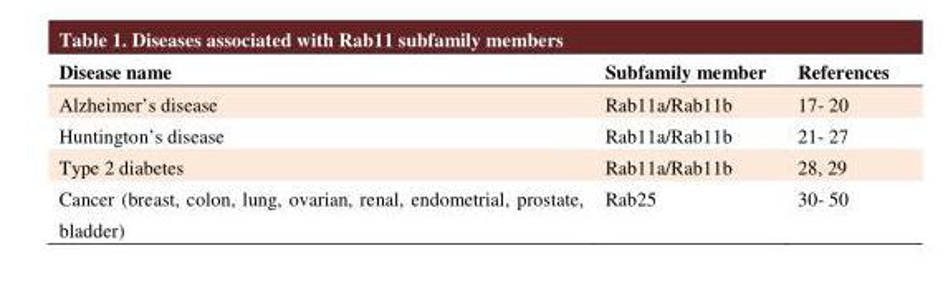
<table><thead><tr><td>Disease name</td><td>Subfamily member</td><td>References</td></tr></thead><tbody><tr><td>Alzheimer’s disease</td><td>Rab11a/Rab11b</td><td>17- 20</td></tr><tr><td>Huntington’s disease</td><td>Rab11a/Rab11b</td><td>21- 27</td></tr><tr><td>Type 2 diabetes</td><td>Rab11a/Rab11b</td><td>28, 29</td></tr><tr><td>Cancer (breast, colon, lung, ovarian, renal, endometrial, prostate, bladder)</td><td>Rab25</td><td>30- 50</td></tr></tbody></table>